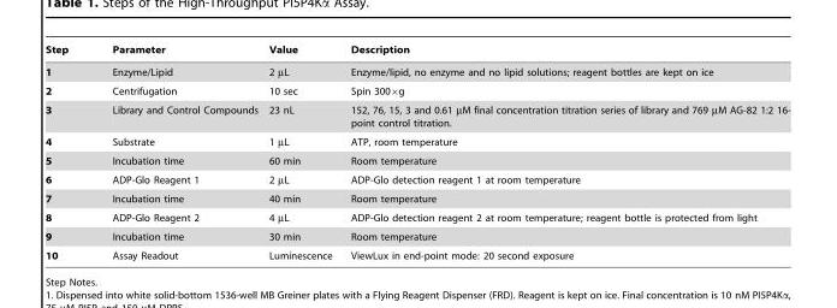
<table><thead><tr><td>Step</td><td>Parameter</td><td>Value</td><td>Description</td></tr></thead><tbody><tr><td>1</td><td>Enzyme/Lipid</td><td>2 µL</td><td>Enzyme/lipid, no enzyme and no lipid solutions; reagent bottles are kept on ice</td></tr><tr><td>2</td><td>Centrifugation</td><td>10 sec</td><td>Spin 300×g</td></tr><tr><td>3</td><td>Library and Control Compounds</td><td>23 nL</td><td>152, 76, 15, 3 and 0.61 µM final concentration titration series of library and 769 µM AG-82 1:2 16- point control titration.</td></tr><tr><td>4</td><td>Substrate</td><td>1 µL</td><td>ATP, room temperature</td></tr><tr><td>5</td><td>Incubation time</td><td>60 min</td><td>Room temperature</td></tr><tr><td>6</td><td>ADP-Glo Reagent 1</td><td>2 µL</td><td>ADP-Glo detection reagent 1 at room temperature</td></tr><tr><td>7</td><td>Incubation time</td><td>40 min</td><td>Room temperature</td></tr><tr><td>8</td><td>ADP-Glo Reagent 2</td><td>4 µL</td><td>ADP-Glo detection reagent 2 at room temperature; reagent bottle is protected from light</td></tr><tr><td>9</td><td>Incubation time</td><td>30 min</td><td>Room temperature</td></tr><tr><td>10</td><td>Assay Readout</td><td>Luminescence</td><td>ViewLux in end-point mode: 20 second exposure</td></tr></tbody></table>